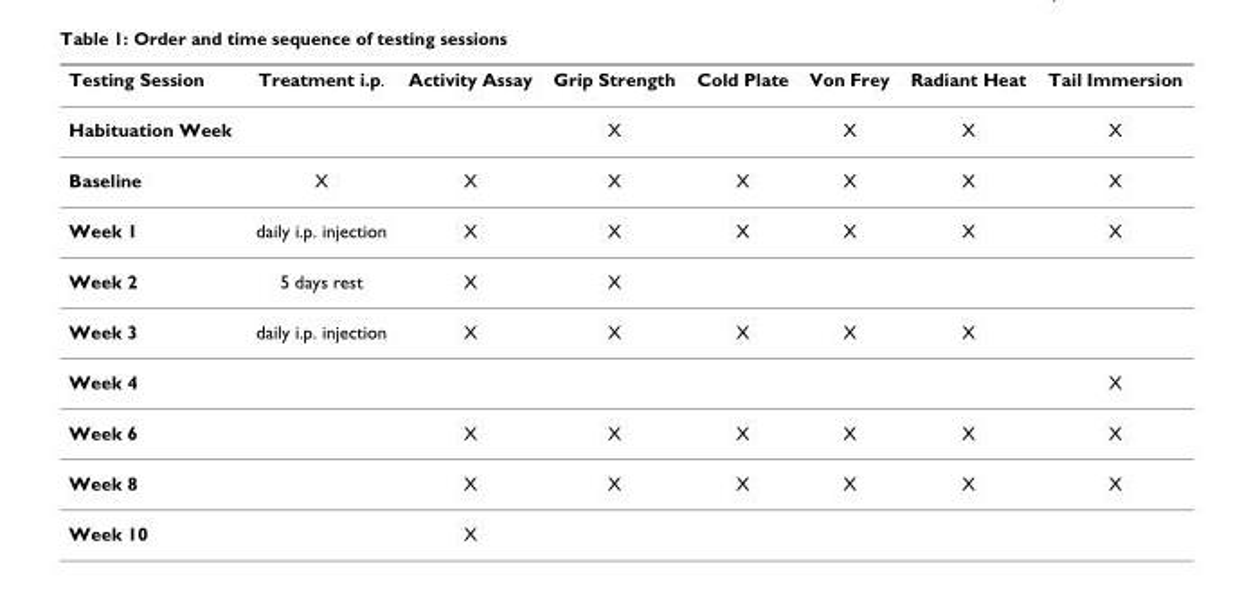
<table><thead><tr><td>Testing Session</td><td>Treatment i.p.</td><td>Activity Assay</td><td>Grip Strength</td><td>Cold Plate</td><td>Von Frey</td><td>Radiant Heat</td><td>Tail Immersion</td></tr></thead><tbody><tr><td>Habituation Week</td><td></td><td></td><td>X</td><td></td><td>X</td><td>X</td><td>X</td></tr><tr><td>Baseline</td><td>X</td><td>X</td><td>X</td><td>X</td><td>X</td><td>X</td><td>X</td></tr><tr><td>Week 1</td><td>daily i.p. injection</td><td>X</td><td>X</td><td>X</td><td>X</td><td>X</td><td>X</td></tr><tr><td>Week 2</td><td>5 days rest</td><td>X</td><td>X</td><td></td><td></td><td></td><td></td></tr><tr><td>Week 3</td><td>daily i.p. injection</td><td>X</td><td>X</td><td>X</td><td>X</td><td>X</td><td></td></tr><tr><td>Week 4</td><td></td><td></td><td></td><td></td><td></td><td></td><td>X</td></tr><tr><td>Week 6</td><td></td><td>X</td><td>X</td><td>X</td><td>X</td><td>X</td><td>X</td></tr><tr><td>Week 8</td><td></td><td>X</td><td>X</td><td>X</td><td>X</td><td>X</td><td>X</td></tr><tr><td>Week 10</td><td></td><td>X</td><td></td><td></td><td></td><td></td><td></td></tr></tbody></table>